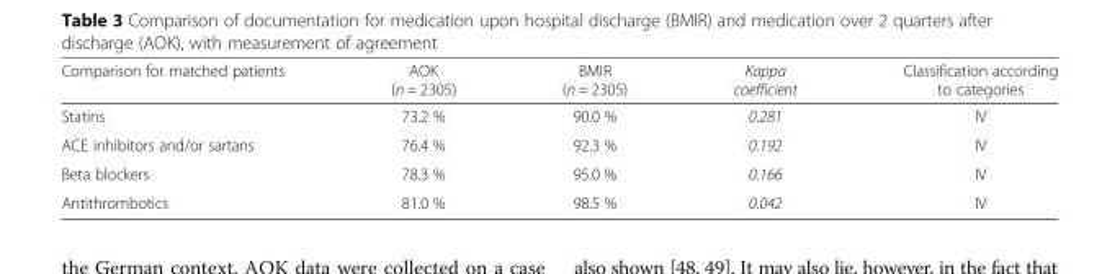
<table><thead><tr><td>Comparison for matched patients</td><td>AOK (n = 2305)</td><td>BMIR (n = 2305)</td><td>Kappa coefficient</td><td>Classification according to categories</td></tr></thead><tbody><tr><td>Statins</td><td>73.2 %</td><td>90.0 %</td><td>0.281</td><td>IV</td></tr><tr><td>ACE inhibitors and/or sartans</td><td>76.4 %</td><td>92.3 %</td><td>0.192</td><td>IV</td></tr><tr><td>Beta blockers</td><td>78.3 %</td><td>95.0 %</td><td>0.166</td><td>IV</td></tr><tr><td>Antithrombotics</td><td>81.0 %</td><td>98.5 %</td><td>0.042</td><td>IV</td></tr></tbody></table>